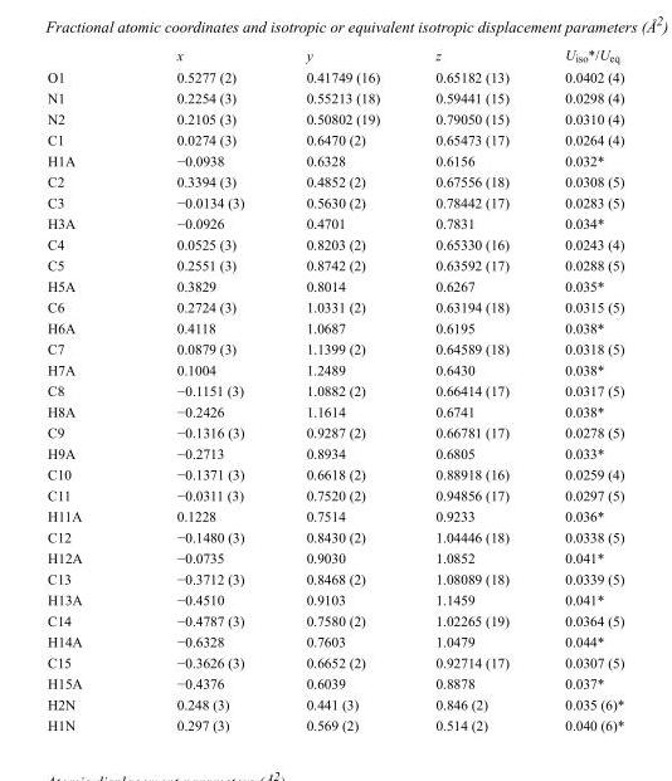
<table><thead><tr><td></td><td>x</td><td>y</td><td>z</td><td>U<sub>iso</sub>*/U<sub>eq</sub></td></tr></thead><tbody><tr><td>O1</td><td>0.5277 (2)</td><td>0.41749 (16)</td><td>0.65182 (13)</td><td>0.0402 (4)</td></tr><tr><td>N1</td><td>0.2254 (3)</td><td>0.55213 (18)</td><td>0.59441 (15)</td><td>0.0298 (4)</td></tr><tr><td>N2</td><td>0.2105 (3)</td><td>0.50802 (19)</td><td>0.79050 (15)</td><td>0.0310 (4)</td></tr><tr><td>C1</td><td>0.0274 (3)</td><td>0.6470 (2)</td><td>0.65473 (17)</td><td>0.0264 (4)</td></tr><tr><td>H1A</td><td>−0.0938</td><td>0.6328</td><td>0.6156</td><td>0.032*</td></tr><tr><td>C2</td><td>0.3394 (3)</td><td>0.4852 (2)</td><td>0.67556 (18)</td><td>0.0308 (5)</td></tr><tr><td>C3</td><td>−0.0134 (3)</td><td>0.5630 (2)</td><td>0.78442 (17)</td><td>0.0283 (5)</td></tr><tr><td>H3A</td><td>−0.0926</td><td>0.4701</td><td>0.7831</td><td>0.034*</td></tr><tr><td>C4</td><td>0.0525 (3)</td><td>0.8203 (2)</td><td>0.65330 (16)</td><td>0.0243 (4)</td></tr><tr><td>C5</td><td>0.2551 (3)</td><td>0.8742 (2)</td><td>0.63592 (17)</td><td>0.0288 (5)</td></tr><tr><td>H5A</td><td>0.3829</td><td>0.8014</td><td>0.6267</td><td>0.035*</td></tr><tr><td>C6</td><td>0.2724 (3)</td><td>1.0331 (2)</td><td>0.63194 (18)</td><td>0.0315 (5)</td></tr><tr><td>H6A</td><td>0.4118</td><td>1.0687</td><td>0.6195</td><td>0.038*</td></tr><tr><td>C7</td><td>0.0879 (3)</td><td>1.1399 (2)</td><td>0.64589 (18)</td><td>0.0318 (5)</td></tr><tr><td>H7A</td><td>0.1004</td><td>1.2489</td><td>0.6430</td><td>0.038*</td></tr><tr><td>C8</td><td>−0.1151 (3)</td><td>1.0882 (2)</td><td>0.66414 (17)</td><td>0.0317 (5)</td></tr><tr><td>H8A</td><td>−0.2426</td><td>1.1614</td><td>0.6741</td><td>0.038*</td></tr><tr><td>C9</td><td>−0.1316 (3)</td><td>0.9287 (2)</td><td>0.66781 (17)</td><td>0.0278 (5)</td></tr><tr><td>H9A</td><td>−0.2713</td><td>0.8934</td><td>0.6805</td><td>0.033*</td></tr><tr><td>C10</td><td>−0.1371 (3)</td><td>0.6618 (2)</td><td>0.88918 (16)</td><td>0.0259 (4)</td></tr><tr><td>C11</td><td>−0.0311 (3)</td><td>0.7520 (2)</td><td>0.94856 (17)</td><td>0.0297 (5)</td></tr><tr><td>H11A</td><td>0.1228</td><td>0.7514</td><td>0.9233</td><td>0.036*</td></tr><tr><td>C12</td><td>−0.1480 (3)</td><td>0.8430 (2)</td><td>1.04446 (18)</td><td>0.0338 (5)</td></tr><tr><td>H12A</td><td>−0.0735</td><td>0.9030</td><td>1.0852</td><td>0.041*</td></tr><tr><td>C13</td><td>−0.3712 (3)</td><td>0.8468 (2)</td><td>1.08089 (18)</td><td>0.0339 (5)</td></tr><tr><td>H13A</td><td>−0.4510</td><td>0.9103</td><td>1.1459</td><td>0.041*</td></tr><tr><td>C14</td><td>−0.4787 (3)</td><td>0.7580 (2)</td><td>1.02265 (19)</td><td>0.0364 (5)</td></tr><tr><td>H14A</td><td>−0.6328</td><td>0.7603</td><td>1.0479</td><td>0.044*</td></tr><tr><td>C15</td><td>−0.3626 (3)</td><td>0.6652 (2)</td><td>0.92714 (17)</td><td>0.0307 (5)</td></tr><tr><td>H15A</td><td>−0.4376</td><td>0.6039</td><td>0.8878</td><td>0.037*</td></tr><tr><td>H2N</td><td>0.248 (3)</td><td>0.441 (3)</td><td>0.846 (2)</td><td>0.035 (6)*</td></tr><tr><td>H1N</td><td>0.297 (3)</td><td>0.569 (2)</td><td>0.514 (2)</td><td>0.040 (6)*</td></tr></tbody></table>